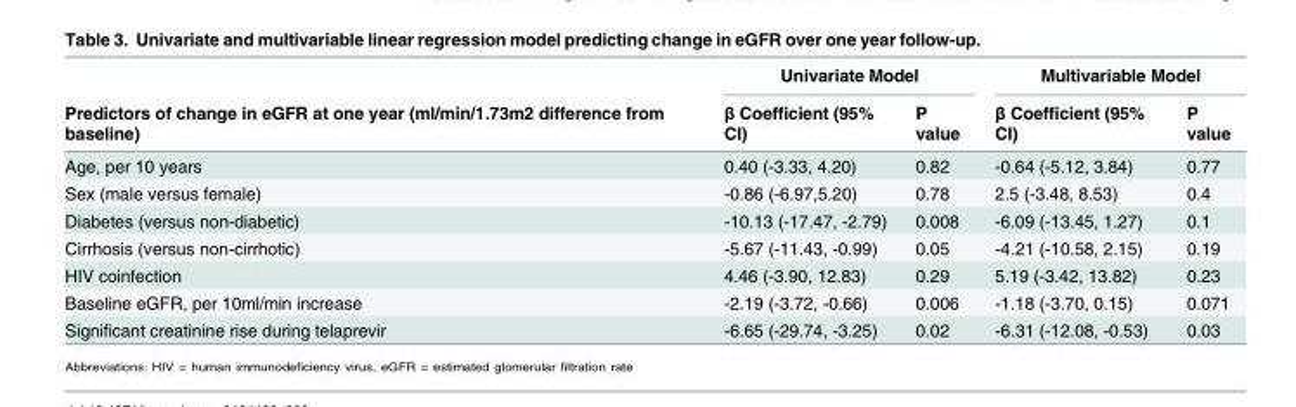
<table><thead><tr><td rowspan="2">Predictors of change in eGFR at one year (ml/min/1.73m2 difference from baseline)</td><td colspan="2">Univariate Model</td><td colspan="2">Multivariable Model</td></tr><tr><td>β Coefficient (95% CI)</td><td>P value</td><td>β Coefficient (95% CI)</td><td>P value</td></tr></thead><tbody><tr><td>Age, per 10 years</td><td>0.40 (-3.33, 4.20)</td><td>0.82</td><td>-0.64 (-5.12, 3.84)</td><td>0.77</td></tr><tr><td>Sex (male versus female)</td><td>-0.86 (-6.97,5.20)</td><td>0.78</td><td>2.5 (-3.48, 8.53)</td><td>0.4</td></tr><tr><td>Diabetes (versus non-diabetic)</td><td>-10.13 (-17.47, -2.79)</td><td>0.008</td><td>-6.09 (-13.45, 1.27)</td><td>0.1</td></tr><tr><td>Cirrhosis (versus non-cirrhotic)</td><td>-5.67 (-11.43, -0.99)</td><td>0.05</td><td>-4.21 (-10.58, 2.15)</td><td>0.19</td></tr><tr><td>HIV coinfection</td><td>4.46 (-3.90, 12.83)</td><td>0.29</td><td>5.19 (-3.42, 13.82)</td><td>0.23</td></tr><tr><td>Baseline eGFR, per 10ml/min increase</td><td>-2.19 (-3.72, -0.66)</td><td>0.006</td><td>-1.18 (-3.70, 0.15)</td><td>0.071</td></tr><tr><td>Significant creatinine rise during telaprevir</td><td>-6.65 (-29.74, -3.25)</td><td>0.02</td><td>-6.31 (-12.08, -0.53)</td><td>0.03</td></tr></tbody></table>